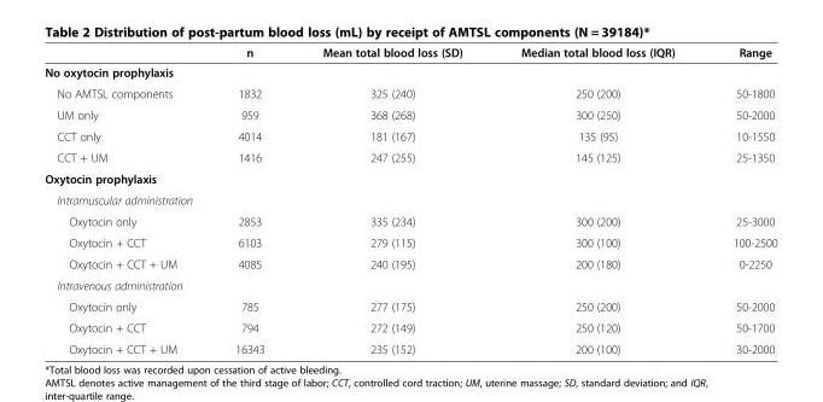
<table><thead><tr><td></td><td>n</td><td>Mean total blood loss (SD)</td><td>Median total blood loss (IQR)</td><td>Range</td></tr></thead><tbody><tr><td colspan="5">No oxytocin prophylaxis</td></tr><tr><td>No AMTSL components</td><td>1832</td><td>325 (240)</td><td>250 (200)</td><td>50-1800</td></tr><tr><td>UM only</td><td>959</td><td>368 (268)</td><td>300 (250)</td><td>50-2000</td></tr><tr><td>CCT only</td><td>4014</td><td>181 (167)</td><td>135 (95)</td><td>10-1550</td></tr><tr><td>CCT + UM</td><td>1416</td><td>247 (255)</td><td>145 (125)</td><td>25-1350</td></tr><tr><td colspan="5">Oxytocin prophylaxis</td></tr><tr><td colspan="5">Intramuscular administration</td></tr><tr><td>Oxytocin only</td><td>2853</td><td>335 (234)</td><td>300 (200)</td><td>25-3000</td></tr><tr><td>Oxytocin + CCT</td><td>6103</td><td>279 (115)</td><td>300 (100)</td><td>100-2500</td></tr><tr><td>Oxytocin + CCT + UM</td><td>4085</td><td>240 (195)</td><td>200 (180)</td><td>0-2250</td></tr><tr><td colspan="5">Intravenous administration</td></tr><tr><td>Oxytocin only</td><td>785</td><td>277 (175)</td><td>250 (200)</td><td>50-2000</td></tr><tr><td>Oxytocin + CCT</td><td>794</td><td>272 (149)</td><td>250 (120)</td><td>50-1700</td></tr><tr><td>Oxytocin + CCT + UM</td><td>16343</td><td>235 (152)</td><td>200 (100)</td><td>30-2000</td></tr></tbody></table>